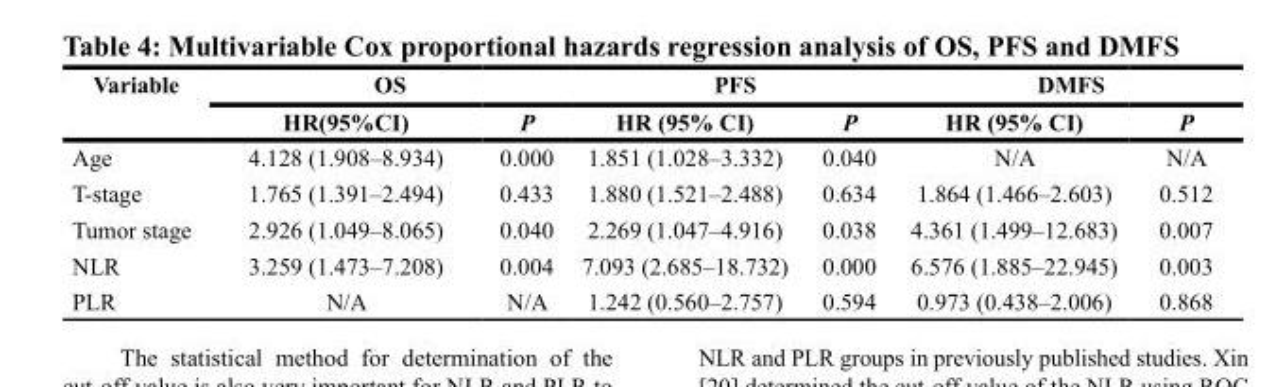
<table><thead><tr><td rowspan="2">Variable</td><td colspan="2">OS</td><td colspan="2">PFS</td><td colspan="2">DMFS</td></tr><tr><td>HR(95%CI)</td><td>P</td><td>HR (95% CI)</td><td>P</td><td>HR (95% CI)</td><td>P</td></tr></thead><tbody><tr><td>Age</td><td>4.128 (1.908–8.934)</td><td>0.000</td><td>1.851 (1.028–3.332)</td><td>0.040</td><td>N/A</td><td>N/A</td></tr><tr><td>T-stage</td><td>1.765 (1.391–2.494)</td><td>0.433</td><td>1.880 (1.521–2.488)</td><td>0.634</td><td>1.864 (1.466–2.603)</td><td>0.512</td></tr><tr><td>Tumor stage</td><td>2.926 (1.049–8.065)</td><td>0.040</td><td>2.269 (1.047–4.916)</td><td>0.038</td><td>4.361 (1.499–12.683)</td><td>0.007</td></tr><tr><td>NLR</td><td>3.259 (1.473–7.208)</td><td>0.004</td><td>7.093 (2.685–18.732)</td><td>0.000</td><td>6.576 (1.885–22.945)</td><td>0.003</td></tr><tr><td>PLR</td><td>N/A</td><td>N/A</td><td>1.242 (0.560–2.757)</td><td>0.594</td><td>0.973 (0.438–2.006)</td><td>0.868</td></tr></tbody></table>